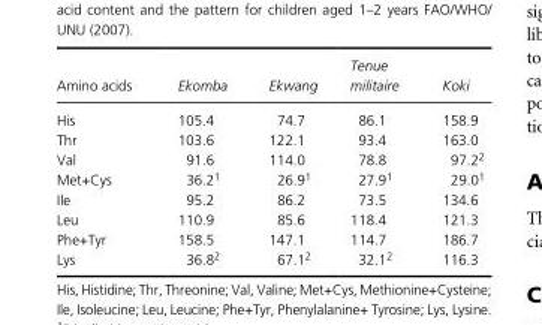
<table><thead><tr><td>Amino acids</td><td>Ekomba</td><td>Ekwang</td><td>Tenue militaire</td><td>Koki</td></tr></thead><tbody><tr><td>His</td><td>105.4</td><td>74.7</td><td>86.1</td><td>158.9</td></tr><tr><td>Thr</td><td>103.6</td><td>122.1</td><td>93.4</td><td>163.0</td></tr><tr><td>Val</td><td>91.6</td><td>114.0</td><td>78.8</td><td>97.22</td></tr><tr><td>Met+Cys</td><td>36.21</td><td>26.91</td><td>27.91</td><td>29.01</td></tr><tr><td>Ile</td><td>95.2</td><td>86.2</td><td>73.5</td><td>134.6</td></tr><tr><td>Leu</td><td>110.9</td><td>85.6</td><td>118.4</td><td>121.3</td></tr><tr><td>Phe+Tyr</td><td>158.5</td><td>147.1</td><td>114.7</td><td>186.7</td></tr><tr><td>Lys</td><td>36.82</td><td>67.12</td><td>32.12</td><td>116.3</td></tr></tbody></table>